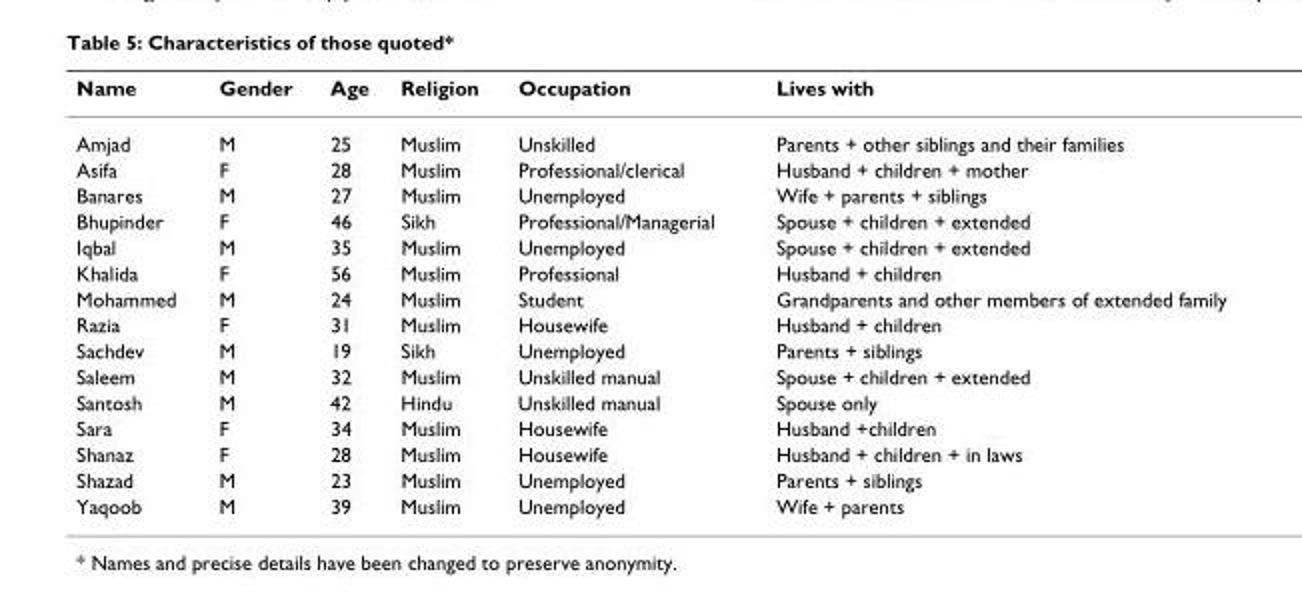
<table><thead><tr><td>Name</td><td>Gender</td><td>Age</td><td>Religion</td><td>Occupation</td><td>Lives with</td></tr></thead><tbody><tr><td>Amjad</td><td>M</td><td>25</td><td>Muslim</td><td>Unskilled</td><td>Parents + other siblings and their families</td></tr><tr><td>Asifa</td><td>F</td><td>28</td><td>Muslim</td><td>Professional/clerical</td><td>Husband + children + mother</td></tr><tr><td>Banares</td><td>M</td><td>27</td><td>Muslim</td><td>Unemployed</td><td>Wife + parents + siblings</td></tr><tr><td>Bhupinder</td><td>F</td><td>46</td><td>Sikh</td><td>Professional/Managerial</td><td>Spouse + children + extended</td></tr><tr><td>Iqbal</td><td>M</td><td>35</td><td>Muslim</td><td>Unemployed</td><td>Spouse + children + extended</td></tr><tr><td>Khalida</td><td>F</td><td>56</td><td>Muslim</td><td>Professional</td><td>Husband + children</td></tr><tr><td>Mohammed</td><td>M</td><td>24</td><td>Muslim</td><td>Student</td><td>Grandparents and other members of extended family</td></tr><tr><td>Razia</td><td>F</td><td>31</td><td>Muslim</td><td>Housewife</td><td>Husband + children</td></tr><tr><td>Sachdev</td><td>M</td><td>19</td><td>Sikh</td><td>Unemployed</td><td>Parents + siblings</td></tr><tr><td>Saleem</td><td>M</td><td>32</td><td>Muslim</td><td>Unskilled manual</td><td>Spouse + children + extended</td></tr><tr><td>Santosh</td><td>M</td><td>42</td><td>Hindu</td><td>Unskilled manual</td><td>Spouse only</td></tr><tr><td>Sara</td><td>F</td><td>34</td><td>Muslim</td><td>Housewife</td><td>Husband +children</td></tr><tr><td>Shanaz</td><td>F</td><td>28</td><td>Muslim</td><td>Housewife</td><td>Husband + children + in laws</td></tr><tr><td>Shazad</td><td>M</td><td>23</td><td>Muslim</td><td>Unemployed</td><td>Parents + siblings</td></tr><tr><td>Yaqoob</td><td>M</td><td>39</td><td>Muslim</td><td>Unemployed</td><td>Wife + parents</td></tr></tbody></table>